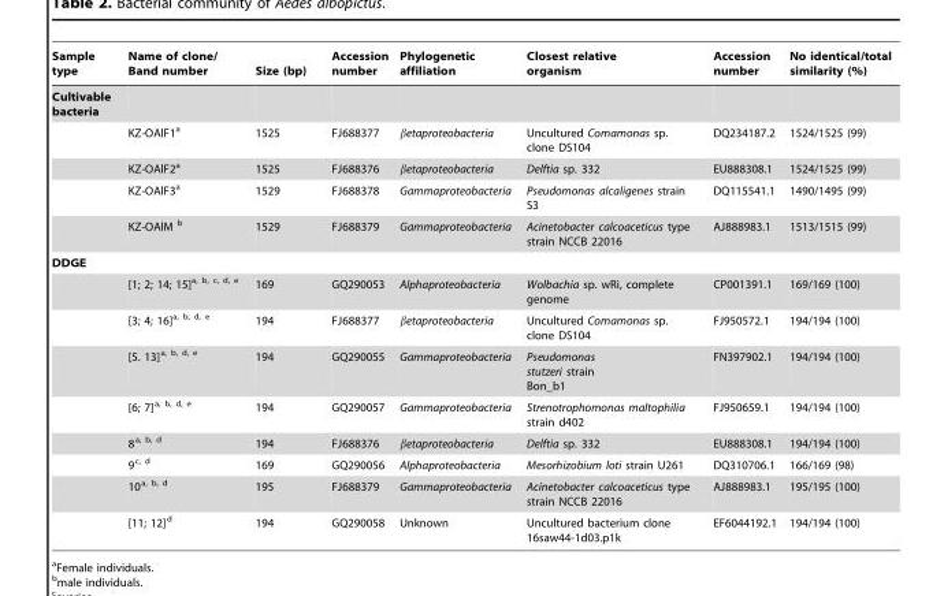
<table><thead><tr><td>Sample type</td><td>Name of clone/ Band number</td><td>Size (bp)</td><td>Accession number</td><td>Phylogenetic affiliation</td><td>Closest relative organism</td><td>Accession number</td><td>No identical/total similarity (%)</td></tr></thead><tbody><tr><td colspan="8">Cultivable bacteria</td></tr><tr><td></td><td>KZ-OAlF1<sup>a</sup></td><td>1525</td><td>FJ688377</td><td>βetaproteobacteria</td><td>Uncultured Comamonas sp. clone DS104</td><td>DQ234187.2</td><td>1524/1525 (99)</td></tr><tr><td></td><td>KZ-OAlF2<sup>a</sup></td><td>1525</td><td>FJ688376</td><td>βetaproteobacteria</td><td>Delftia sp. 332</td><td>EU888308.1</td><td>1524/1525 (99)</td></tr><tr><td></td><td>KZ-OAlF3<sup>a</sup></td><td>1529</td><td>FJ688378</td><td>Gammaproteobacteria</td><td>Pseudomonas alcaligenes strain S3</td><td>DQ115541.1</td><td>1490/1495 (99)</td></tr><tr><td></td><td>KZ-OAlM b</td><td>1529</td><td>FJ688379</td><td>Gammaproteobacteria</td><td>Acinetobacter calcoaceticus type strain NCCB 22016</td><td>AJ888983.1</td><td>1513/1515 (99)</td></tr><tr><td colspan="8">DDGE</td></tr><tr><td></td><td>[1; 2; 14; 15]a, b, c, d, e</td><td>169</td><td>GQ290053</td><td>Alphaproteobacteria</td><td>Wolbachia sp. wRi, complete genome</td><td>CP001391.1</td><td>169/169 (100)</td></tr><tr><td></td><td>[3; 4; 16]a, b, d, e</td><td>194</td><td>FJ688377</td><td>βetaproteobacteria</td><td>Uncultured Comamonas sp. clone DS104</td><td>FJ950572.1</td><td>194/194 (100)</td></tr><tr><td></td><td>[5. 13]a, b, d, e</td><td>194</td><td>GQ290055</td><td>Gammaproteobacteria</td><td>Pseudomonas stutzeri strain Bon_b1</td><td>FN397902.1</td><td>194/194 (100)</td></tr><tr><td></td><td>[6; 7]a, b, d, e</td><td>194</td><td>GQ290057</td><td>Gammaproteobacteria</td><td>Strenotrophomonas maltophilia strain d402</td><td>FJ950659.1</td><td>194/194 (100)</td></tr><tr><td></td><td>8a, b, d</td><td>194</td><td>FJ688376</td><td>βetaproteobacteria</td><td>Delftia sp. 332</td><td>EU888308.1</td><td>194/194 (100)</td></tr><tr><td></td><td>9c, d</td><td>169</td><td>GQ290056</td><td>Alphaproteobacteria</td><td>Mesorhizobium loti strain U261</td><td>DQ310706.1</td><td>166/169 (98)</td></tr><tr><td></td><td>10a, b, d</td><td>195</td><td>FJ688379</td><td>Gammaproteobacteria</td><td>Acinetobacter calcoaceticus type strain NCCB 22016</td><td>AJ888983.1</td><td>195/195 (100)</td></tr><tr><td></td><td>[11; 12]d</td><td>194</td><td>GQ290058</td><td>Unknown</td><td>Uncultured bacterium clone 16saw44-1d03.p1k</td><td>EF6044192.1</td><td>194/194 (100)</td></tr></tbody></table>